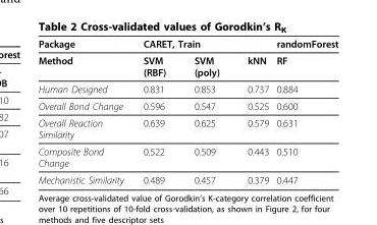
<table><thead><tr><td rowspan="2">Package Method</td><td colspan="3">CARET, Train</td><td rowspan="2">randomForest RF</td></tr><tr><td>SVM (RBF)</td><td>SVM (poly)</td><td>kNN</td></tr></thead><tbody><tr><td>Human Designed</td><td>0.831</td><td>0.853</td><td>0.737</td><td>0.884</td></tr><tr><td>Overall Bond Change</td><td>0.596</td><td>0.547</td><td>0.525</td><td>0.600</td></tr><tr><td>Overall Reaction Similarity</td><td>0.639</td><td>0.625</td><td>0.579</td><td>0.631</td></tr><tr><td>Composite Bond Change</td><td>0.522</td><td>0.509</td><td>0.443</td><td>0.510</td></tr><tr><td>Mechanistic Similarity</td><td>0.489</td><td>0.457</td><td>0.379</td><td>0.447</td></tr></tbody></table>